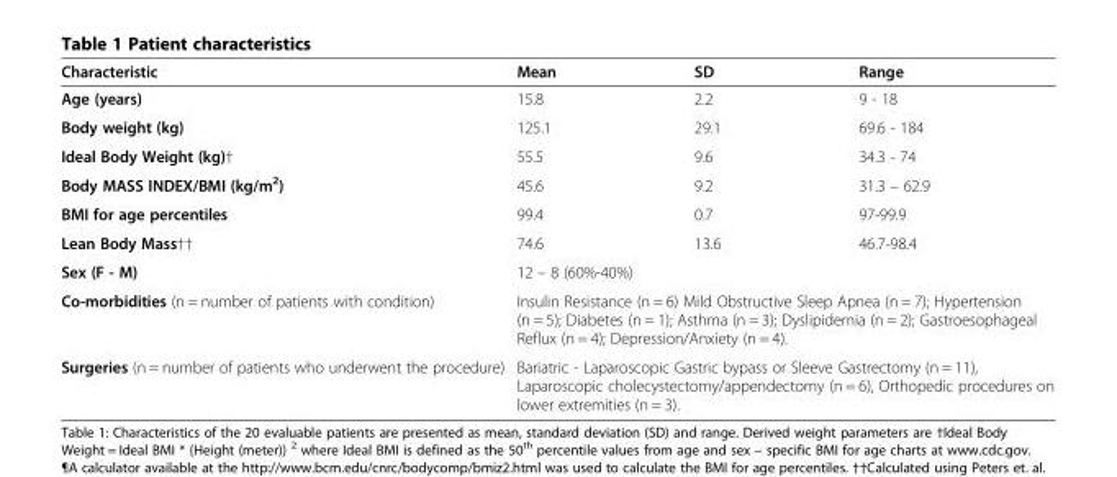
<table><thead><tr><td>Characteristic</td><td>Mean</td><td>SD</td><td>Range</td></tr></thead><tbody><tr><td>Age (years)</td><td>15.8</td><td>2.2</td><td>9 - 18</td></tr><tr><td>Body weight (kg)</td><td>125.1</td><td>29.1</td><td>69.6 - 184</td></tr><tr><td>Ideal Body Weight (kg)†</td><td>55.5</td><td>9.6</td><td>34.3 - 74</td></tr><tr><td>Body MASS INDEX/BMI (kg/m<sup>2</sup>)</td><td>45.6</td><td>9.2</td><td>31.3 – 62.9</td></tr><tr><td>BMI for age percentiles</td><td>99.4</td><td>0.7</td><td>97-99.9</td></tr><tr><td>Lean Body Mass††</td><td>74.6</td><td>13.6</td><td>46.7-98.4</td></tr><tr><td>Sex (F - M)</td><td colspan="3">12 – 8 (60%-40%)</td></tr><tr><td>Co-morbidities (n = number of patients with condition)</td><td colspan="3">Insulin Resistance (n = 6) Mild Obstructive Sleep Apnea (n = 7); Hypertension (n = 5); Diabetes (n = 1); Asthma (n = 3); Dyslipidemia (n = 2); Gastroesophageal Reflux (n = 4); Depression/Anxiety (n = 4).</td></tr><tr><td>Surgeries (n = number of patients who underwent the procedure)</td><td colspan="3">Bariatric - Laparoscopic Gastric bypass or Sleeve Gastrectomy (n = 11), Laparoscopic cholecystectomy/appendectomy (n = 6), Orthopedic procedures on lower extremities (n = 3).</td></tr></tbody></table>